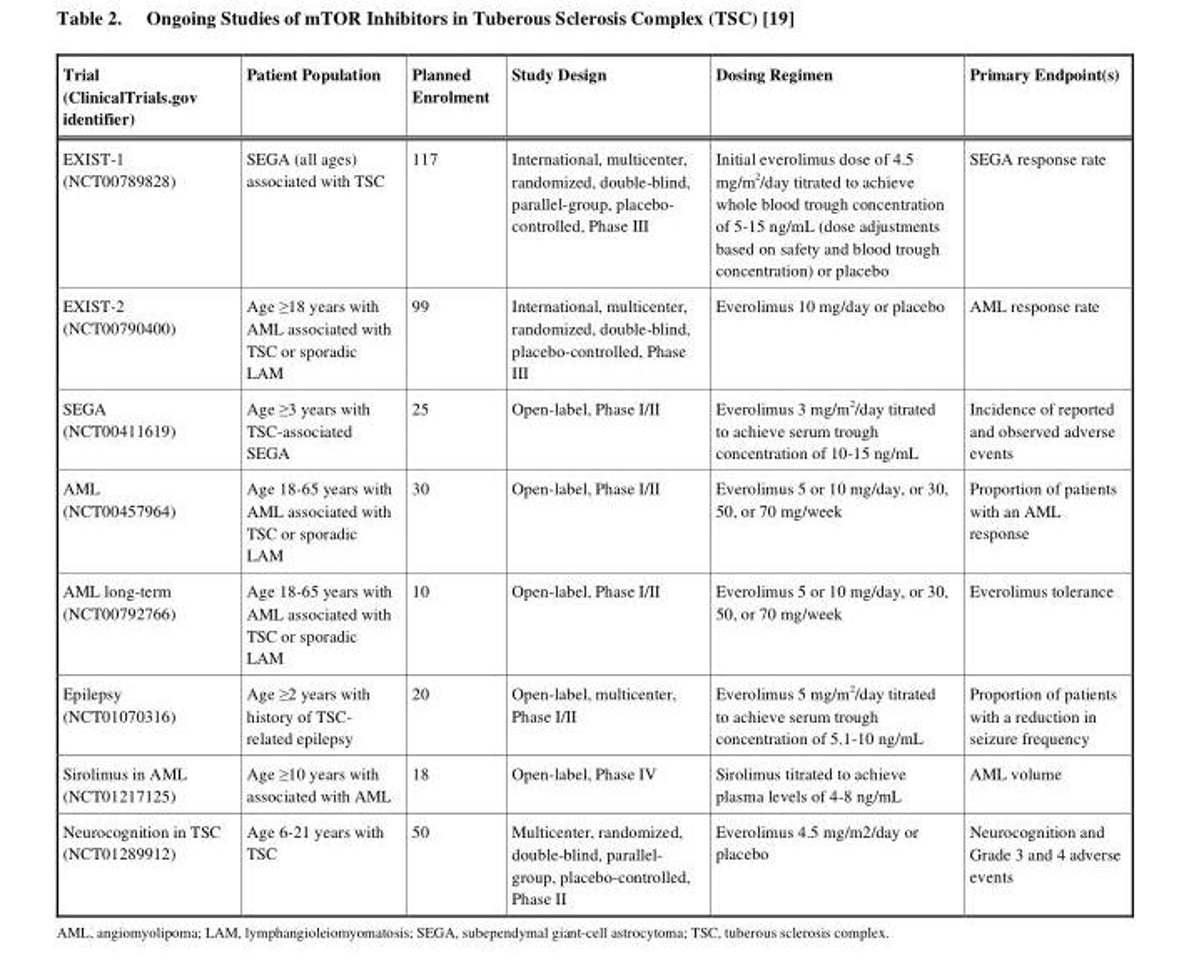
<table><thead><tr><td>Trial (ClinicalTrials.gov identifier)</td><td>Patient Population</td><td>Planned Enrolment</td><td>Study Design</td><td>Dosing Regimen</td><td>Primary Endpoint(s)</td></tr></thead><tbody><tr><td>EXIST-1 (NCT00789828)</td><td>SEGA (all ages) associated with TSC</td><td>117</td><td>International, multicenter, randomized, double-blind, parallel-group, placebo- controlled, Phase III</td><td>Initial everolimus dose of 4.5 mg/m<sup>2</sup>/day titrated to achieve whole blood trough concentration of 5-15 ng/mL (dose adjustments based on safety and blood trough concentration) or placebo</td><td>SEGA response rate</td></tr><tr><td>EXIST-2 (NCT00790400)</td><td>Age ≥18 years with AML associated with TSC or sporadic LAM</td><td>99</td><td>International, multicenter, randomized, double-blind, placebo-controlled, Phase III</td><td>Everolimus 10 mg/day or placebo</td><td>AML response rate</td></tr><tr><td>SEGA (NCT00411619)</td><td>Age ≥3 years with TSC-associated SEGA</td><td>25</td><td>Open-label, Phase I/II</td><td>Everolimus 3 mg/m<sup>2</sup>/day titrated to achieve serum trough concentration of 10-15 ng/mL</td><td>Incidence of reported and observed adverse events</td></tr><tr><td>AML (NCT00457964)</td><td>Age 18-65 years with AML associated with TSC or sporadic LAM</td><td>30</td><td>Open-label, Phase I/II</td><td>Everolimus 5 or 10 mg/day, or 30, 50, or 70 mg/week</td><td>Proportion of patients with an AML response</td></tr><tr><td>AML long-term (NCT00792766)</td><td>Age 18-65 years with AML associated with TSC or sporadic LAM</td><td>10</td><td>Open-label, Phase I/II</td><td>Everolimus 5 or 10 mg/day, or 30, 50, or 70 mg/week</td><td>Everolimus tolerance</td></tr><tr><td>Epilepsy (NCT01070316)</td><td>Age ≥2 years with history of TSC- related epilepsy</td><td>20</td><td>Open-label, multicenter, Phase I/II</td><td>Everolimus 5 mg/m<sup>2</sup>/day titrated to achieve serum trough concentration of 5.1-10 ng/mL</td><td>Proportion of patients with a reduction in seizure frequency</td></tr><tr><td>Sirolimus in AML (NCT01217125)</td><td>Age ≥10 years with associated with AML</td><td>18</td><td>Open-label, Phase IV</td><td>Sirolimus titrated to achieve plasma levels of 4-8 ng/mL</td><td>AML volume</td></tr><tr><td>Neurocognition in TSC (NCT01289912)</td><td>Age 6-21 years with TSC</td><td>50</td><td>Multicenter, randomized, double-blind, parallel- group, placebo-controlled, Phase II</td><td>Everolimus 4.5 mg/m2/day or placebo</td><td>Neurocognition and Grade 3 and 4 adverse events</td></tr></tbody></table>